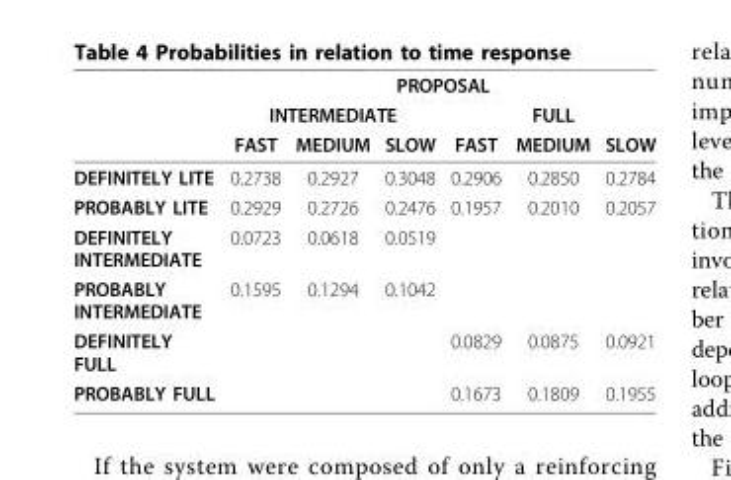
<table><thead><tr><td rowspan="3"></td><td colspan="6">PROPOSAL</td></tr><tr><td colspan="3">INTERMEDIATE</td><td colspan="3">FULL</td></tr><tr><td>FAST</td><td>MEDIUM</td><td>SLOW</td><td>FAST</td><td>MEDIUM</td><td>SLOW</td></tr></thead><tbody><tr><td>DEFINITELY LITE</td><td>0.2738</td><td>0.2927</td><td>0.3048</td><td>0.2906</td><td>0.2850</td><td>0.2784</td></tr><tr><td>PROBABLY LITE</td><td>0.2929</td><td>0.2726</td><td>0.2476</td><td>0.1957</td><td>0.2010</td><td>0.2057</td></tr><tr><td>DEFINITELY INTERMEDIATE</td><td>0.0723</td><td>0.0618</td><td>0.0519</td><td></td><td></td><td></td></tr><tr><td>PROBABLY INTERMEDIATE</td><td>0.1595</td><td>0.1294</td><td>0.1042</td><td></td><td></td><td></td></tr><tr><td>DEFINITELY FULL</td><td></td><td></td><td></td><td>0.0829</td><td>0.0875</td><td>0.0921</td></tr><tr><td>PROBABLY FULL</td><td></td><td></td><td></td><td>0.1673</td><td>0.1809</td><td>0.1955</td></tr></tbody></table>